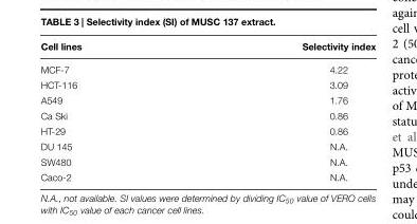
<table><thead><tr><td>Cell lines</td><td>Selectivity index</td></tr></thead><tbody><tr><td>MCF-7</td><td>4.22</td></tr><tr><td>HCT-116</td><td>3.09</td></tr><tr><td>A549</td><td>1.76</td></tr><tr><td>Ca Ski</td><td>0.86</td></tr><tr><td>HT-29</td><td>0.86</td></tr><tr><td>DU 145</td><td>N.A.</td></tr><tr><td>SW480</td><td>N.A.</td></tr><tr><td>Caco-2</td><td>N.A.</td></tr></tbody></table>